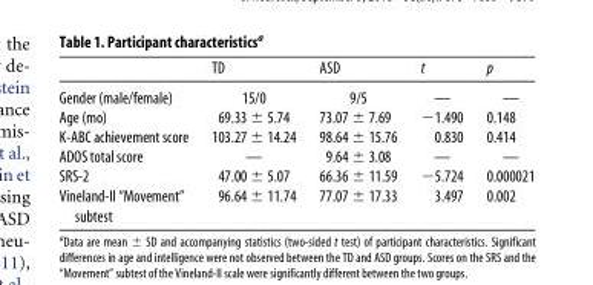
<table><thead><tr><td></td><td>TD</td><td>ASD</td><td>t</td><td>p</td></tr></thead><tbody><tr><td>Gender (male/female)</td><td>15/0</td><td>9/5</td><td>—</td><td>—</td></tr><tr><td>Age (mo)</td><td>69.33 ± 5.74</td><td>73.07 ± 7.69</td><td>−1.490</td><td>0.148</td></tr><tr><td>K-ABC achievement score</td><td>103.27 ± 14.24</td><td>98.64 ± 15.76</td><td>0.830</td><td>0.414</td></tr><tr><td>ADOS total score</td><td>—</td><td>9.64 ± 3.08</td><td>—</td><td>—</td></tr><tr><td>SRS-2</td><td>47.00 ± 5.07</td><td>66.36 ± 11.59</td><td>−5.724</td><td>0.000021</td></tr><tr><td>Vineland-II “Movement” subtest</td><td>96.64 ± 11.74</td><td>77.07 ± 17.33</td><td>3.497</td><td>0.002</td></tr></tbody></table>